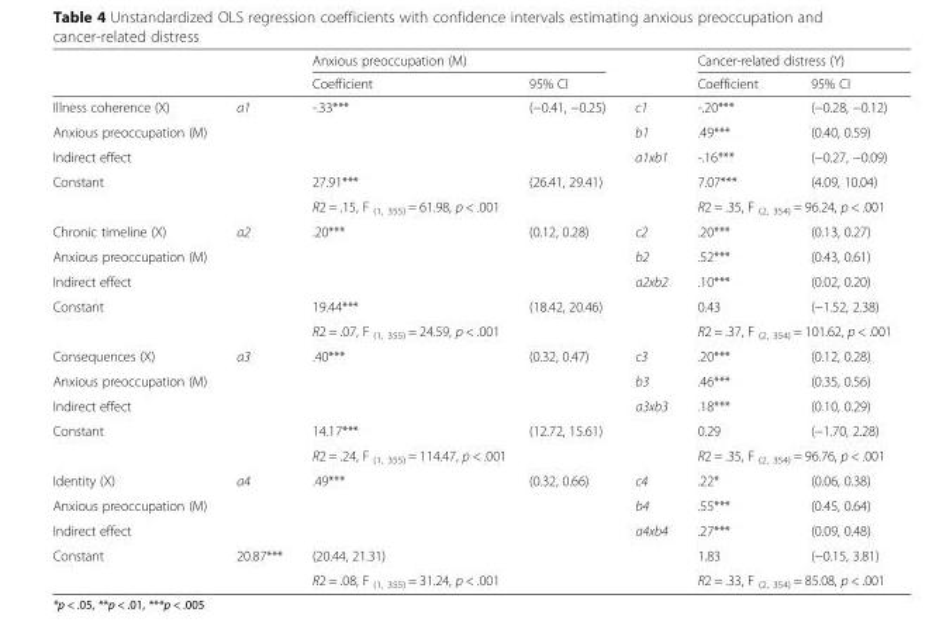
<table><thead><tr><td rowspan="2"></td><td rowspan="2"></td><td colspan="2">Anxious preoccupation (M)</td><td rowspan="2"></td><td colspan="2">Cancer-related distress (Y)</td></tr><tr><td>Coefficient</td><td>95% CI</td><td>Coefficient</td><td>95% CI</td></tr></thead><tbody><tr><td>Illness coherence (X)</td><td>a1</td><td>-.33***</td><td>(−0.41, −0.25)</td><td>c1</td><td>-.20***</td><td>(−0.28, −0.12)</td></tr><tr><td>Anxious preoccupation (M)</td><td></td><td></td><td></td><td>b1</td><td>.49***</td><td>(0.40, 0.59)</td></tr><tr><td>Indirect effect</td><td></td><td></td><td></td><td>a1xb1</td><td>-.16***</td><td>(−0.27, −0.09)</td></tr><tr><td rowspan="2">Constant</td><td></td><td>27.91***</td><td>(26.41, 29.41)</td><td></td><td>7.07***</td><td>(4.09, 10.04)</td></tr><tr><td></td><td colspan="2">R2 = .15, F <sub>(1, 355)</sub> = 61.98, p &lt; .001</td><td></td><td colspan="2">R2 = .35, F <sub>(2, 354)</sub> = 96.24, p &lt; .001</td></tr><tr><td>Chronic timeline (X)</td><td>a2</td><td>.20***</td><td>(0.12, 0.28)</td><td>c2</td><td>.20***</td><td>(0.13, 0.27)</td></tr><tr><td>Anxious preoccupation (M)</td><td></td><td></td><td></td><td>b2</td><td>.52***</td><td>(0.43, 0.61)</td></tr><tr><td>Indirect effect</td><td></td><td></td><td></td><td>a2xb2</td><td>.10***</td><td>(0.02, 0.20)</td></tr><tr><td rowspan="2">Constant</td><td></td><td>19.44***</td><td>(18.42, 20.46)</td><td></td><td>0.43</td><td>(−1.52, 2.38)</td></tr><tr><td></td><td colspan="2">R2 = .07, F <sub>(1, 355)</sub> = 24.59, p &lt; .001</td><td></td><td colspan="2">R2 = .37, F <sub>(2, 354)</sub> = 101.62, p &lt; .001</td></tr><tr><td>Consequences (X)</td><td>a3</td><td>.40***</td><td>(0.32, 0.47)</td><td>c3</td><td>.20***</td><td>(0.12, 0.28)</td></tr><tr><td>Anxious preoccupation (M)</td><td></td><td></td><td></td><td>b3</td><td>.46***</td><td>(0.35, 0.56)</td></tr><tr><td>Indirect effect</td><td></td><td></td><td></td><td>a3xb3</td><td>.18***</td><td>(0.10, 0.29)</td></tr><tr><td rowspan="2">Constant</td><td></td><td>14.17***</td><td>(12.72, 15.61)</td><td></td><td>0.29</td><td>(−1.70, 2.28)</td></tr><tr><td></td><td colspan="2">R2 = .24, F <sub>(1, 355)</sub> = 114.47, p &lt; .001</td><td></td><td colspan="2">R2 = .35, F <sub>(2, 354)</sub> = 96.76, p &lt; .001</td></tr><tr><td>Identity (X)</td><td>a4</td><td>.49***</td><td>(0.32, 0.66)</td><td>c4</td><td>.22*</td><td>(0.06, 0.38)</td></tr><tr><td>Anxious preoccupation (M)</td><td></td><td></td><td></td><td>b4</td><td>.55***</td><td>(0.45, 0.64)</td></tr><tr><td>Indirect effect</td><td></td><td></td><td></td><td>a4xb4</td><td>.27***</td><td>(0.09, 0.48)</td></tr><tr><td rowspan="2">Constant</td><td>20.87***</td><td>(20.44, 21.31)</td><td></td><td></td><td>1.83</td><td>(−0.15, 3.81)</td></tr><tr><td></td><td>R2 = .08, F <sub>(1, 355)</sub> = 31.24, p &lt; .001</td><td></td><td></td><td colspan="2">R2 = .33, F <sub>(2, 354)</sub> = 85.08, p &lt; .001</td></tr></tbody></table>